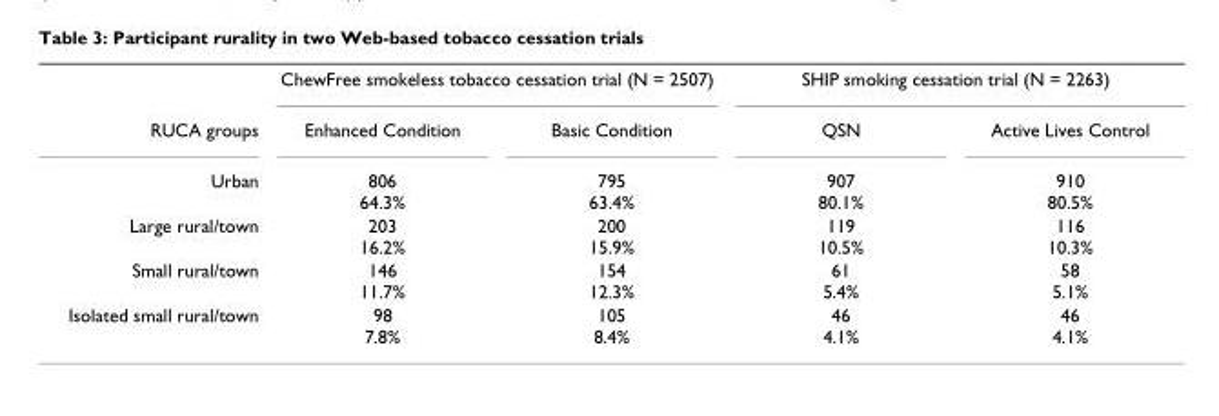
<table><thead><tr><td rowspan="2">RUCA groups</td><td colspan="2">ChewFree smokeless tobacco cessation trial (N = 2507)</td><td colspan="2">SHIP smoking cessation trial (N = 2263)</td></tr><tr><td>Enhanced Condition</td><td>Basic Condition</td><td>QSN</td><td>Active Lives Control</td></tr></thead><tbody><tr><td>Urban</td><td>806 64.3%</td><td>795 63.4%</td><td>907 80.1%</td><td>910 80.5%</td></tr><tr><td>Large rural/town</td><td>203 16.2%</td><td>200 15.9%</td><td>119 10.5%</td><td>116 10.3%</td></tr><tr><td>Small rural/town</td><td>146 11.7%</td><td>154 12.3%</td><td>61 5.4%</td><td>58 5.1%</td></tr><tr><td>Isolated small rural/town</td><td>98 7.8%</td><td>105 8.4%</td><td>46 4.1%</td><td>46 4.1%</td></tr></tbody></table>